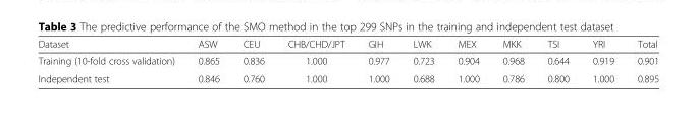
<table><thead><tr><td>Dataset</td><td>ASW</td><td>CEU</td><td>CHB/CHD/JPT</td><td>GIH</td><td>LWK</td><td>MEX</td><td>MKK</td><td>TSI</td><td>YRI</td><td>Total</td></tr></thead><tbody><tr><td>Training (10-fold cross validation)</td><td>0.865</td><td>0.836</td><td>1.000</td><td>0.977</td><td>0.723</td><td>0.904</td><td>0.968</td><td>0.644</td><td>0.919</td><td>0.901</td></tr><tr><td>Independent test</td><td>0.846</td><td>0.760</td><td>1.000</td><td>1.000</td><td>0.688</td><td>1.000</td><td>0.786</td><td>0.800</td><td>1.000</td><td>0.895</td></tr></tbody></table>